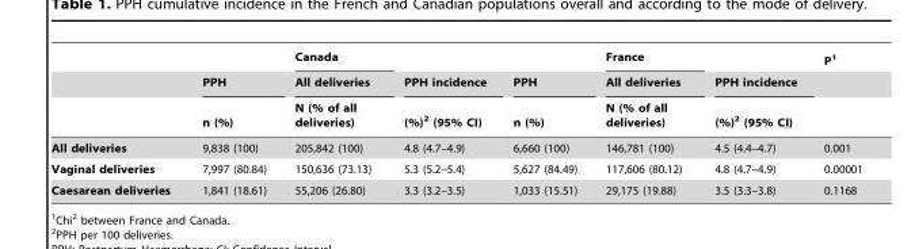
<table><thead><tr><td rowspan="3"></td><td rowspan="3">PPH n (%)</td><td rowspan="3">Canada All deliveries N (% of all deliveries)</td><td rowspan="3">PPH incidence (%)<sup>2</sup> (95% CI)</td><td rowspan="3">PPH n (%)</td><td rowspan="3">France All deliveries N (% of all deliveries)</td><td rowspan="3">PPH incidence (%)<sup>2</sup> (95% CI)</td><td rowspan="3">P<sup>1</sup></td></tr><tr></tr><tr></tr></thead><tbody><tr><td>All deliveries</td><td>9,838 (100)</td><td>205,842 (100)</td><td>4.8 (4.7–4.9)</td><td>6,660 (100)</td><td>146,781 (100)</td><td>4.5 (4.4–4.7)</td><td>0.001</td></tr><tr><td>Vaginal deliveries</td><td>7,997 (80.84)</td><td>150,636 (73.13)</td><td>5.3 (5.2–5.4)</td><td>5,627 (84.49)</td><td>117,606 (80.12)</td><td>4.8 (4.7–4.9)</td><td>0.00001</td></tr><tr><td>Caesarean deliveries</td><td>1,841 (18.61)</td><td>55,206 (26.80)</td><td>3.3 (3.2–3.5)</td><td>1,033 (15.51)</td><td>29,175 (19.88)</td><td>3.5 (3.3–3.8)</td><td>0.1168</td></tr></tbody></table>